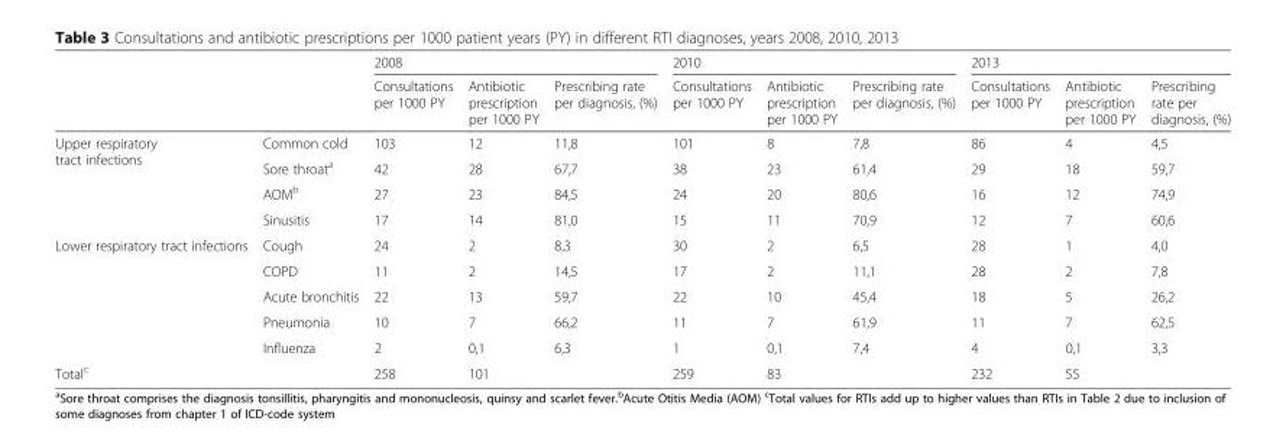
<table><thead><tr><td rowspan="2"></td><td rowspan="2"></td><td colspan="3">2008</td><td colspan="3">2010</td><td colspan="3">2013</td></tr><tr><td>Consultations per 1000 PY</td><td>Antibiotic prescription per 1000 PY</td><td>Prescribing rate per diagnosis, (%)</td><td>Consultations per 1000 PY</td><td>Antibiotic prescription per 1000 PY</td><td>Prescribing rate per diagnosis, (%)</td><td>Consultations per 1000 PY</td><td>Antibiotic prescription per 1000 PY</td><td>Prescribing rate per diagnosis, (%)</td></tr></thead><tbody><tr><td rowspan="4">Upper respiratory tract infections</td><td>Common cold</td><td>103</td><td>12</td><td>11,8</td><td>101</td><td>8</td><td>7,8</td><td>86</td><td>4</td><td>4,5</td></tr><tr><td>Sore throat<sup>a</sup></td><td>42</td><td>28</td><td>67,7</td><td>38</td><td>23</td><td>61,4</td><td>29</td><td>18</td><td>59,7</td></tr><tr><td>AOM<sup>b</sup></td><td>27</td><td>23</td><td>84,5</td><td>24</td><td>20</td><td>80,6</td><td>16</td><td>12</td><td>74,9</td></tr><tr><td>Sinusitis</td><td>17</td><td>14</td><td>81,0</td><td>15</td><td>11</td><td>70,9</td><td>12</td><td>7</td><td>60,6</td></tr><tr><td rowspan="5">Lower respiratory tract infections</td><td>Cough</td><td>24</td><td>2</td><td>8,3</td><td>30</td><td>2</td><td>6,5</td><td>28</td><td>1</td><td>4,0</td></tr><tr><td>COPD</td><td>11</td><td>2</td><td>14,5</td><td>17</td><td>2</td><td>11,1</td><td>28</td><td>2</td><td>7,8</td></tr><tr><td>Acute bronchitis</td><td>22</td><td>13</td><td>59,7</td><td>22</td><td>10</td><td>45,4</td><td>18</td><td>5</td><td>26,2</td></tr><tr><td>Pneumonia</td><td>10</td><td>7</td><td>66,2</td><td>11</td><td>7</td><td>61,9</td><td>11</td><td>7</td><td>62,5</td></tr><tr><td>Influenza</td><td>2</td><td>0,1</td><td>6,3</td><td>1</td><td>0,1</td><td>7,4</td><td>4</td><td>0,1</td><td>3,3</td></tr><tr><td>Total<sup>c</sup></td><td></td><td>258</td><td>101</td><td></td><td>259</td><td>83</td><td></td><td>232</td><td>55</td><td></td></tr></tbody></table>